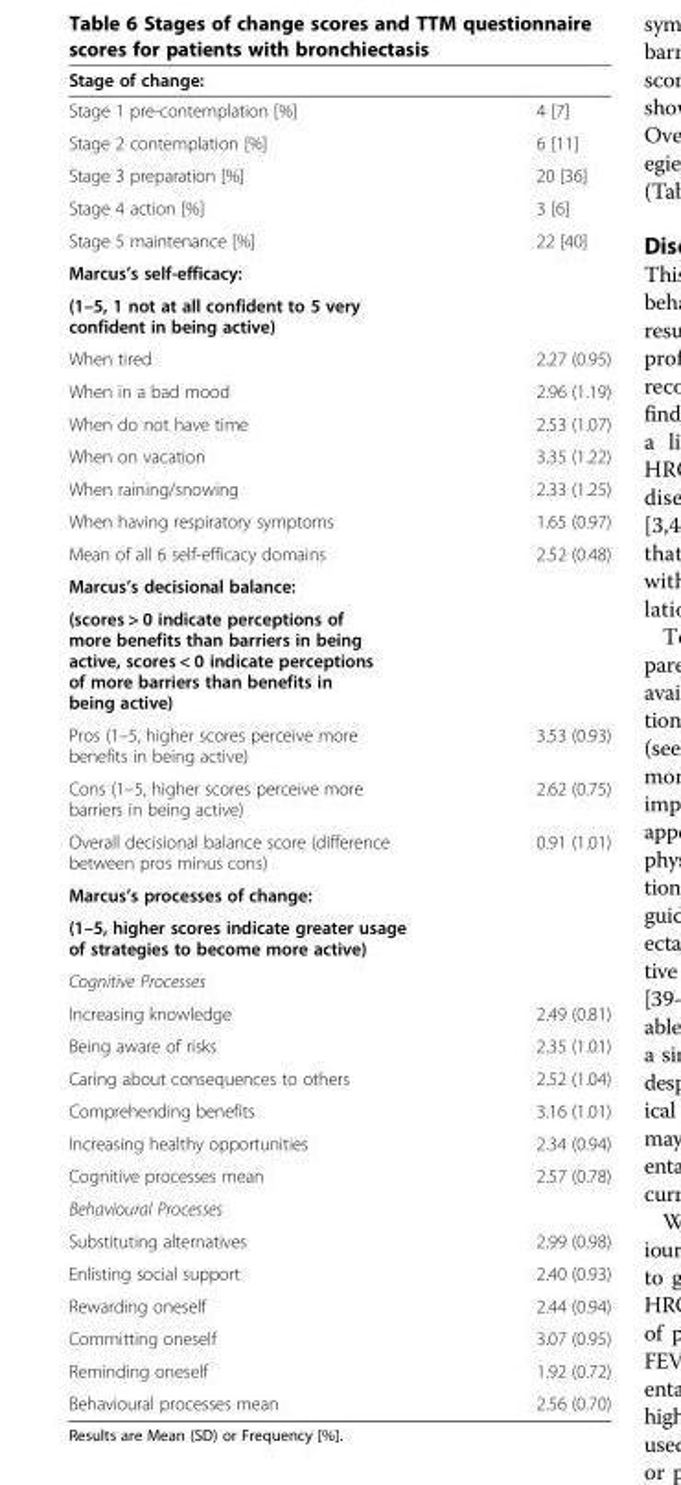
<table><thead><tr><td>Stage of change:</td><td></td></tr></thead><tbody><tr><td>Stage 1 pre-contemplation [%]</td><td>4 [7]</td></tr><tr><td>Stage 2 contemplation [%]</td><td>6 [11]</td></tr><tr><td>Stage 3 preparation [%]</td><td>20 [36]</td></tr><tr><td>Stage 4 action [%]</td><td>3 [6]</td></tr><tr><td>Stage 5 maintenance [%]</td><td>22 [40]</td></tr><tr><td colspan="2">Marcus’s self-efficacy:</td></tr><tr><td colspan="2">(1–5, 1 not at all confident to 5 very confident in being active)</td></tr><tr><td>When tired</td><td>2.27 (0.95)</td></tr><tr><td>When in a bad mood</td><td>2.96 (1.19)</td></tr><tr><td>When do not have time</td><td>2.53 (1.07)</td></tr><tr><td>When on vacation</td><td>3.35 (1.22)</td></tr><tr><td>When raining/snowing</td><td>2.33 (1.25)</td></tr><tr><td>When having respiratory symptoms</td><td>1.65 (0.97)</td></tr><tr><td>Mean of all 6 self-efficacy domains</td><td>2.52 (0.48)</td></tr><tr><td colspan="2">Marcus’s decisional balance:</td></tr><tr><td colspan="2">(scores &gt; 0 indicate perceptions of more benefits than barriers in being active, scores &lt; 0 indicate perceptions of more barriers than benefits in being active)</td></tr><tr><td>Pros (1–5, higher scores perceive more benefits in being active)</td><td>3.53 (0.93)</td></tr><tr><td>Cons (1–5, higher scores perceive more barriers in being active)</td><td>2.62 (0.75)</td></tr><tr><td>Overall decisional balance score (difference between pros minus cons)</td><td>0.91 (1.01)</td></tr><tr><td colspan="2">Marcus’s processes of change:</td></tr><tr><td colspan="2">(1–5, higher scores indicate greater usage of strategies to become more active)</td></tr><tr><td colspan="2">Cognitive Processes</td></tr><tr><td>Increasing knowledge</td><td>2.49 (0.81)</td></tr><tr><td>Being aware of risks</td><td>2.35 (1.01)</td></tr><tr><td>Caring about consequences to others</td><td>2.52 (1.04)</td></tr><tr><td>Comprehending benefits</td><td>3.16 (1.01)</td></tr><tr><td>Increasing healthy opportunities</td><td>2.34 (0.94)</td></tr><tr><td>Cognitive processes mean</td><td>2.57 (0.78)</td></tr><tr><td colspan="2">Behavioural Processes</td></tr><tr><td>Substituting alternatives</td><td>2.99 (0.98)</td></tr><tr><td>Enlisting social support</td><td>2.40 (0.93)</td></tr><tr><td>Rewarding oneself</td><td>2.44 (0.94)</td></tr><tr><td>Committing oneself</td><td>3.07 (0.95)</td></tr><tr><td>Reminding oneself</td><td>1.92 (0.72)</td></tr><tr><td>Behavioural processes mean</td><td>2.56 (0.70)</td></tr></tbody></table>